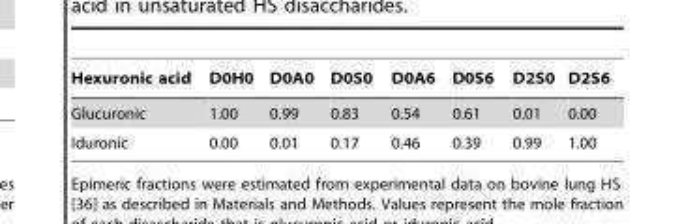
<table><thead><tr><td>Hexuronic acid</td><td>D0H0</td><td>D0A0</td><td>D0S0</td><td>D0A6</td><td>D0S6</td><td>D2S0</td><td>D2S6</td></tr></thead><tbody><tr><td>Glucuronic</td><td>1.00</td><td>0.99</td><td>0.83</td><td>0.54</td><td>0.61</td><td>0.01</td><td>0.00</td></tr><tr><td>Iduronic</td><td>0.00</td><td>0.01</td><td>0.17</td><td>0.46</td><td>0.39</td><td>0.99</td><td>1.00</td></tr></tbody></table>